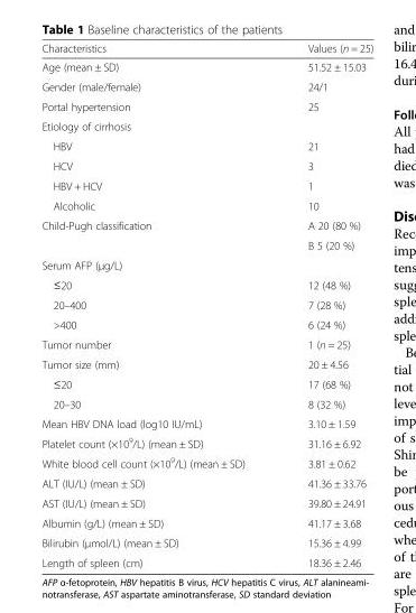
<table><thead><tr><td>Characteristics</td><td>Values (n = 25)</td></tr></thead><tbody><tr><td>Age (mean ± SD)</td><td>51.52 ± 15.03</td></tr><tr><td>Gender (male/female)</td><td>24/1</td></tr><tr><td>Portal hypertension</td><td>25</td></tr><tr><td colspan="2">Etiology of cirrhosis</td></tr><tr><td>HBV</td><td>21</td></tr><tr><td>HCV</td><td>3</td></tr><tr><td>HBV + HCV</td><td>1</td></tr><tr><td>Alcoholic</td><td>10</td></tr><tr><td rowspan="2">Child-Pugh classification</td><td>A 20 (80 %)</td></tr><tr><td>B 5 (20 %)</td></tr><tr><td colspan="2">Serum AFP (μg/L)</td></tr><tr><td>≤20</td><td>12 (48 %)</td></tr><tr><td>20–400</td><td>7 (28 %)</td></tr><tr><td>&gt;400</td><td>6 (24 %)</td></tr><tr><td>Tumor number</td><td>1 (n = 25)</td></tr><tr><td>Tumor size (mm)</td><td>20 ± 4.56</td></tr><tr><td>≤20</td><td>17 (68 %)</td></tr><tr><td>20–30</td><td>8 (32 %)</td></tr><tr><td>Mean HBV DNA load (log10 IU/mL)</td><td>3.10 ± 1.59</td></tr><tr><td>Platelet count (×10<sup>9</sup>/L) (mean ± SD)</td><td>31.16 ± 6.92</td></tr><tr><td>White blood cell count (×10<sup>9</sup>/L) (mean ± SD)</td><td>3.81 ± 0.62</td></tr><tr><td>ALT (IU/L) (mean ± SD)</td><td>41.36 ± 33.76</td></tr><tr><td>AST (IU/L) (mean ± SD)</td><td>39.80 ± 24.91</td></tr><tr><td>Albumin (g/L) (mean ± SD)</td><td>41.17 ± 3.68</td></tr><tr><td>Bilirubin (μmol/L) (mean ± SD)</td><td>15.36 ± 4.99</td></tr><tr><td>Length of spleen (cm)</td><td>18.36 ± 2.46</td></tr></tbody></table>